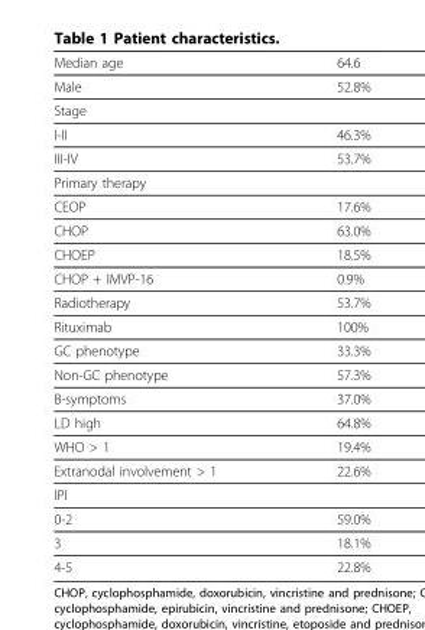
<table><thead><tr><td>Median age</td><td>64.6</td></tr></thead><tbody><tr><td>Male</td><td>52.8%</td></tr><tr><td colspan="2">Stage</td></tr><tr><td>I-II</td><td>46.3%</td></tr><tr><td>III-IV</td><td>53.7%</td></tr><tr><td colspan="2">Primary therapy</td></tr><tr><td>CEOP</td><td>17.6%</td></tr><tr><td>CHOP</td><td>63.0%</td></tr><tr><td>CHOEP</td><td>18.5%</td></tr><tr><td>CHOP + IMVP-16</td><td>0.9%</td></tr><tr><td>Radiotherapy</td><td>53.7%</td></tr><tr><td>Rituximab</td><td>100%</td></tr><tr><td>GC phenotype</td><td>33.3%</td></tr><tr><td>Non-GC phenotype</td><td>57.3%</td></tr><tr><td>B-symptoms</td><td>37.0%</td></tr><tr><td>LD high</td><td>64.8%</td></tr><tr><td>WHO &gt; 1</td><td>19.4%</td></tr><tr><td>Extranodal involvement &gt; 1</td><td>22.6%</td></tr><tr><td colspan="2">IPI</td></tr><tr><td>0-2</td><td>59.0%</td></tr><tr><td>3</td><td>18.1%</td></tr><tr><td>4-5</td><td>22.8%</td></tr></tbody></table>